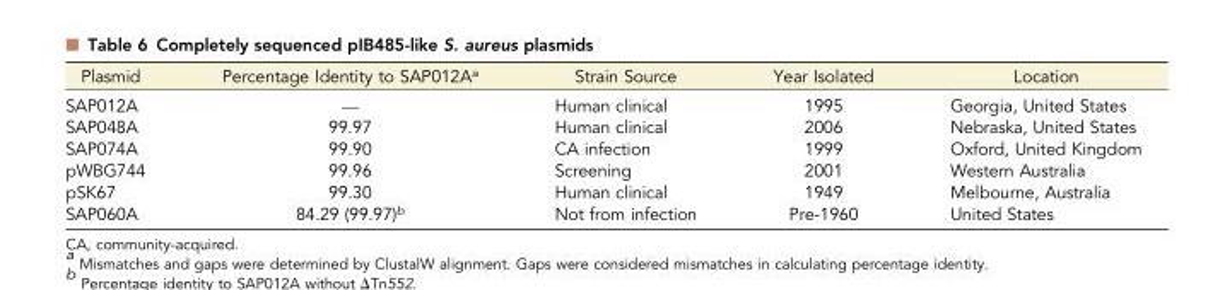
<table><thead><tr><td>Plasmid</td><td>Percentage Identity to SAP012A<sup>a</sup></td><td>Strain Source</td><td>Year Isolated</td><td>Location</td></tr></thead><tbody><tr><td>SAP012A</td><td>—</td><td>Human clinical</td><td>1995</td><td>Georgia, United States</td></tr><tr><td>SAP048A</td><td>99.97</td><td>Human clinical</td><td>2006</td><td>Nebraska, United States</td></tr><tr><td>SAP074A</td><td>99.90</td><td>CA infection</td><td>1999</td><td>Oxford, United Kingdom</td></tr><tr><td>pWBG744</td><td>99.96</td><td>Screening</td><td>2001</td><td>Western Australia</td></tr><tr><td>pSK67</td><td>99.30</td><td>Human clinical</td><td>1949</td><td>Melbourne, Australia</td></tr><tr><td>SAP060A</td><td>84.29 (99.97)<sup>b</sup></td><td>Not from infection</td><td>Pre-1960</td><td>United States</td></tr></tbody></table>